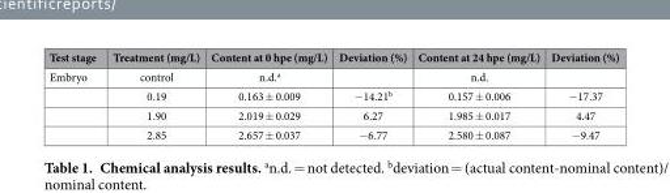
<table><thead><tr><td>Test stage</td><td>Treatment (mg/L)</td><td>Content at 0 hpe (mg/L)</td><td>Deviation (%)</td><td>Content at 24 hpe (mg/L)</td><td>Deviation (%)</td></tr></thead><tbody><tr><td rowspan="4">Embryo</td><td>control</td><td>n.d.<sup>a</sup></td><td></td><td>n.d.</td><td></td></tr><tr><td>0.19</td><td>0.163 ± 0.009</td><td>− 14.21<sup>b</sup></td><td>0.157 ± 0.006</td><td>− 17.37</td></tr><tr><td>1.90</td><td>2.019 ± 0.029</td><td>6.27</td><td>1.985 ± 0.017</td><td>4.47</td></tr><tr><td>2.85</td><td>2.657 ± 0.037</td><td>− 6.77</td><td>2.580 ± 0.087</td><td>− 9.47</td></tr></tbody></table>